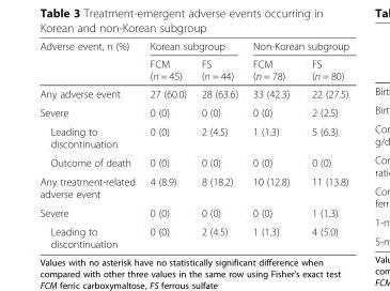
<table><thead><tr><td rowspan="2">Adverse event, n (%)</td><td colspan="2">Korean subgroup</td><td colspan="2">Non-Korean subgroup</td></tr><tr><td>FCM (n = 45)</td><td>FS (n = 44)</td><td>FCM (n = 78)</td><td>FS (n = 80)</td></tr></thead><tbody><tr><td>Any adverse event</td><td>27 (60.0)</td><td>28 (63.6)</td><td>33 (42.3)</td><td>22 (27.5)</td></tr><tr><td>Severe</td><td>0 (0)</td><td>0 (0)</td><td>0 (0)</td><td>2 (2.5)</td></tr><tr><td>Leading to discontinuation</td><td>0 (0)</td><td>2 (4.5)</td><td>1 (1.3)</td><td>5 (6.3)</td></tr><tr><td>Outcome of death</td><td>0 (0)</td><td>0 (0)</td><td>0 (0)</td><td>0 (0)</td></tr><tr><td>Any treatment-related adverse event</td><td>4 (8.9)</td><td>8 (18.2)</td><td>10 (12.8)</td><td>11 (13.8)</td></tr><tr><td>Severe</td><td>0 (0)</td><td>0 (0)</td><td>0 (0)</td><td>1 (1.3)</td></tr><tr><td>Leading to discontinuation</td><td>0 (0)</td><td>2 (4.5)</td><td>1 (1.3)</td><td>4 (5.0)</td></tr></tbody></table>